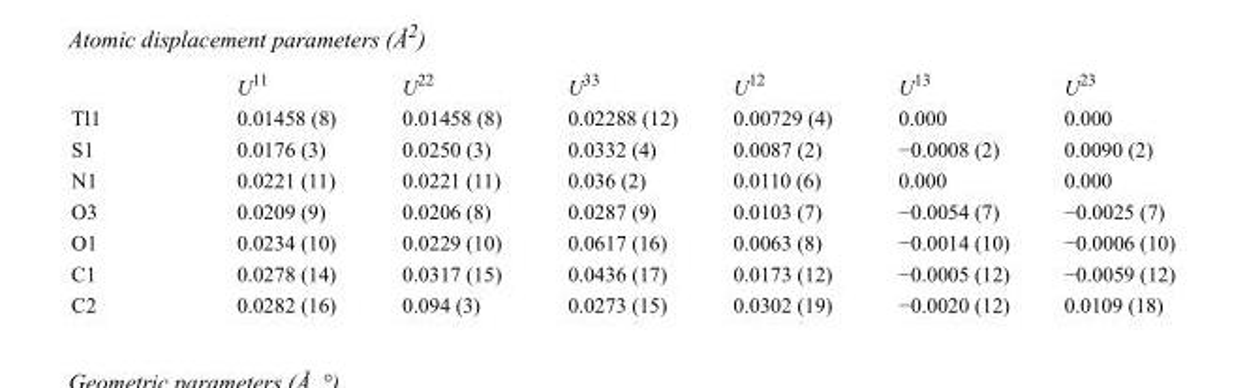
<table><thead><tr><td></td><td>U<sup>11</sup></td><td>U<sup>22</sup></td><td>U<sup>33</sup></td><td>U<sup>12</sup></td><td>U<sup>13</sup></td><td>U<sup>23</sup></td></tr></thead><tbody><tr><td>Tl1</td><td>0.01458 (8)</td><td>0.01458 (8)</td><td>0.02288 (12)</td><td>0.00729 (4)</td><td>0.000</td><td>0.000</td></tr><tr><td>S1</td><td>0.0176 (3)</td><td>0.0250 (3)</td><td>0.0332 (4)</td><td>0.0087 (2)</td><td>−0.0008 (2)</td><td>0.0090 (2)</td></tr><tr><td>N1</td><td>0.0221 (11)</td><td>0.0221 (11)</td><td>0.036 (2)</td><td>0.0110 (6)</td><td>0.000</td><td>0.000</td></tr><tr><td>O3</td><td>0.0209 (9)</td><td>0.0206 (8)</td><td>0.0287 (9)</td><td>0.0103 (7)</td><td>−0.0054 (7)</td><td>−0.0025 (7)</td></tr><tr><td>O1</td><td>0.0234 (10)</td><td>0.0229 (10)</td><td>0.0617 (16)</td><td>0.0063 (8)</td><td>−0.0014 (10)</td><td>−0.0006 (10)</td></tr><tr><td>C1</td><td>0.0278 (14)</td><td>0.0317 (15)</td><td>0.0436 (17)</td><td>0.0173 (12)</td><td>−0.0005 (12)</td><td>−0.0059 (12)</td></tr><tr><td>C2</td><td>0.0282 (16)</td><td>0.094 (3)</td><td>0.0273 (15)</td><td>0.0302 (19)</td><td>−0.0020 (12)</td><td>0.0109 (18)</td></tr></tbody></table>